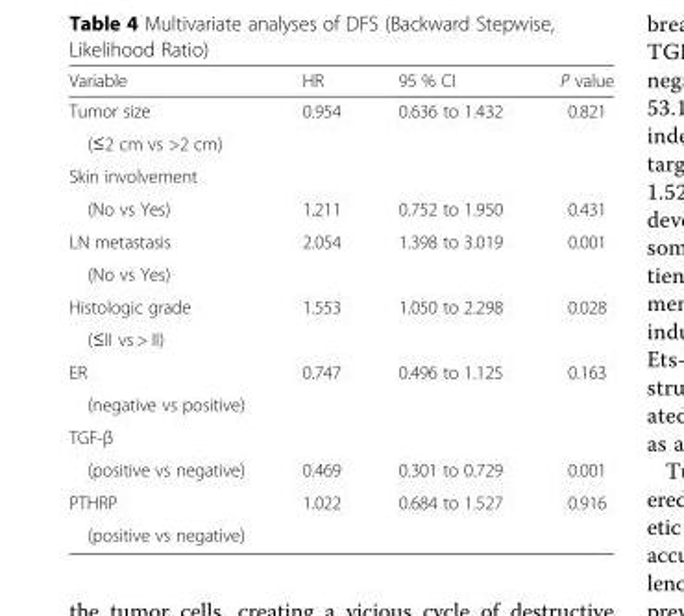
<table><thead><tr><td>Variable</td><td>HR</td><td>95 % CI</td><td>P value</td></tr></thead><tbody><tr><td>Tumor size</td><td rowspan="2">0.954</td><td rowspan="2">0.636 to 1.432</td><td rowspan="2">0.821</td></tr><tr><td>(≤2 cm vs &gt;2 cm)</td></tr><tr><td colspan="4">Skin involvement</td></tr><tr><td>(No vs Yes)</td><td>1.211</td><td>0.752 to 1.950</td><td>0.431</td></tr><tr><td>LN metastasis</td><td rowspan="2">2.054</td><td rowspan="2">1.398 to 3.019</td><td rowspan="2">0.001</td></tr><tr><td>(No vs Yes)</td></tr><tr><td>Histologic grade</td><td rowspan="2">1.553</td><td rowspan="2">1.050 to 2.298</td><td rowspan="2">0.028</td></tr><tr><td>(≤II vs &gt; II)</td></tr><tr><td>ER</td><td rowspan="2">0.747</td><td rowspan="2">0.496 to 1.125</td><td rowspan="2">0.163</td></tr><tr><td>(negative vs positive)</td></tr><tr><td colspan="4">TGF-β</td></tr><tr><td>(positive vs negative)</td><td>0.469</td><td>0.301 to 0.729</td><td>0.001</td></tr><tr><td>PTHRP</td><td rowspan="2">1.022</td><td rowspan="2">0.684 to 1.527</td><td rowspan="2">0.916</td></tr><tr><td>(positive vs negative)</td></tr></tbody></table>